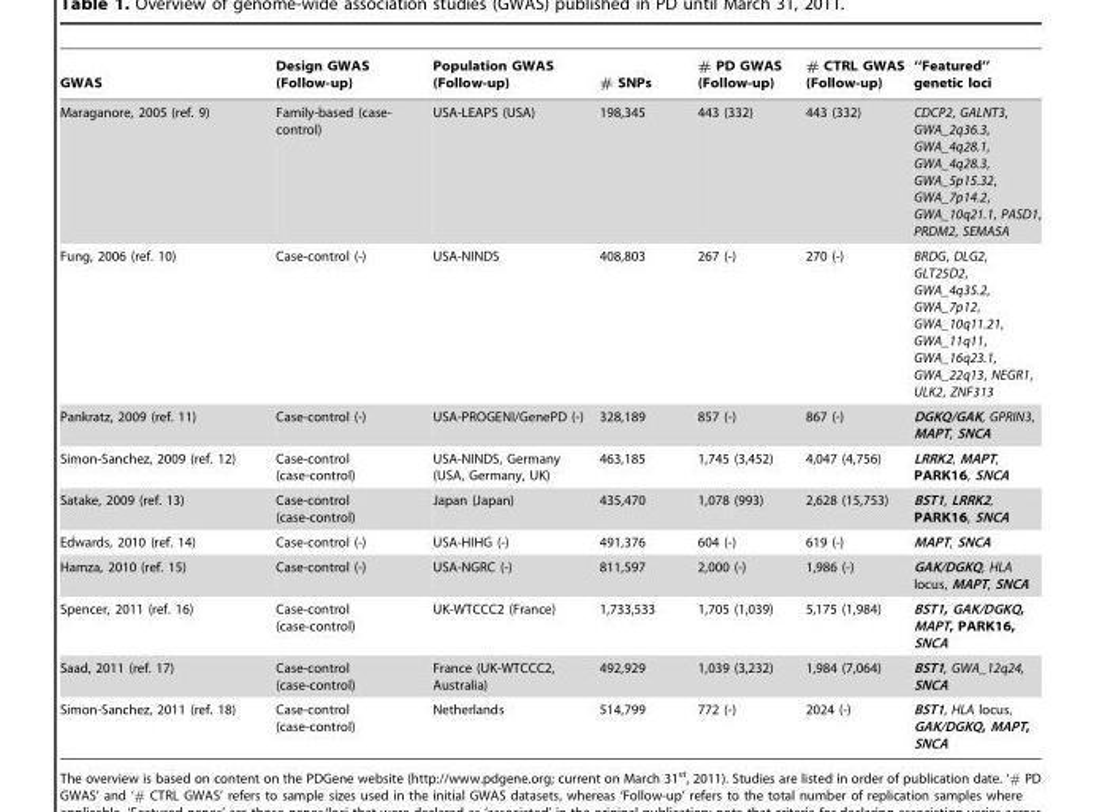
<table><thead><tr><td>GWAS</td><td>Design GWAS (Follow-up)</td><td>Population GWAS (Follow-up)</td><td># SNPs</td><td># PD GWAS (Follow-up)</td><td># CTRL GWAS (Follow-up)</td><td>‘‘Featured’’ genetic loci</td></tr></thead><tbody><tr><td>Maraganore, 2005 (ref. 9)</td><td>Family-based (case- control)</td><td>USA-LEAPS (USA)</td><td>198,345</td><td>443 (332)</td><td>443 (332)</td><td>CDCP2, GALNT3, GWA_2q36.3, GWA_4q28.1, GWA_4q28.3, GWA_5p15.32, GWA_7p14.2, GWA_10q21.1, PASD1, PRDM2, SEMA5A</td></tr><tr><td>Fung, 2006 (ref. 10)</td><td>Case-control (-)</td><td>USA-NINDS</td><td>408,803</td><td>267 (-)</td><td>270 (-)</td><td>BRDG, DLG2, GLT25D2, GWA_4q35.2, GWA_7p12, GWA_10q11.21, GWA_11q11, GWA_16q23.1, GWA_22q13, NEGR1, ULK2, ZNF313</td></tr><tr><td>Pankratz, 2009 (ref. 11)</td><td>Case-control (-)</td><td>USA-PROGENI/GenePD (-)</td><td>328,189</td><td>857 (-)</td><td>867 (-)</td><td>DGKQ/GAK, GPRIN3, MAPT, SNCA</td></tr><tr><td>Simon-Sanchez, 2009 (ref. 12)</td><td>Case-control (case-control)</td><td>USA-NINDS, Germany (USA, Germany, UK)</td><td>463,185</td><td>1,745 (3,452)</td><td>4,047 (4,756)</td><td>LRRK2, MAPT, PARK16, SNCA</td></tr><tr><td>Satake, 2009 (ref. 13)</td><td>Case-control (case-control)</td><td>Japan (Japan)</td><td>435,470</td><td>1,078 (993)</td><td>2,628 (15,753)</td><td>BST1, LRRK2, PARK16, SNCA</td></tr><tr><td>Edwards, 2010 (ref. 14)</td><td>Case-control (-)</td><td>USA-HIHG (-)</td><td>491,376</td><td>604 (-)</td><td>619 (-)</td><td>MAPT, SNCA</td></tr><tr><td>Hamza, 2010 (ref. 15)</td><td>Case-control (-)</td><td>USA-NGRC (-)</td><td>811,597</td><td>2,000 (-)</td><td>1,986 (-)</td><td>GAK/DGKQ, HLA locus, MAPT, SNCA</td></tr><tr><td>Spencer, 2011 (ref. 16)</td><td>Case-control (case-control)</td><td>UK-WTCCC2 (France)</td><td>1,733,533</td><td>1,705 (1,039)</td><td>5,175 (1,984)</td><td>BST1, GAK/DGKQ, MAPT, PARK16, SNCA</td></tr><tr><td>Saad, 2011 (ref. 17)</td><td>Case-control (case-control)</td><td>France (UK-WTCCC2, Australia)</td><td>492,929</td><td>1,039 (3,232)</td><td>1,984 (7,064)</td><td>BST1, GWA_12q24, SNCA</td></tr><tr><td>Simon-Sanchez, 2011 (ref. 18)</td><td>Case-control (case-control)</td><td>Netherlands</td><td>514,799</td><td>772 (-)</td><td>2024 (-)</td><td>BST1, HLA locus, GAK/DGKQ, MAPT, SNCA</td></tr></tbody></table>